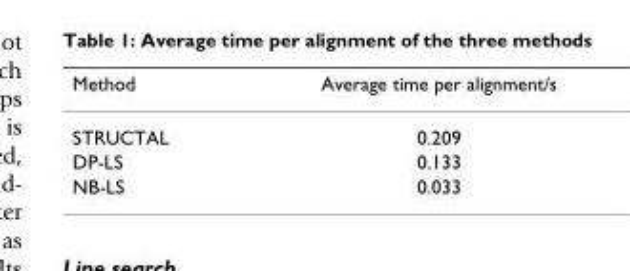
<table><thead><tr><td>Method</td><td>Average time per alignment/s</td></tr></thead><tbody><tr><td>STRUCTAL</td><td>0.209</td></tr><tr><td>DP-LS</td><td>0.133</td></tr><tr><td>NB-LS</td><td>0.033</td></tr></tbody></table>